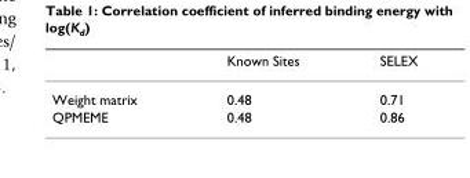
<table><thead><tr><td></td><td>Known Sites</td><td>SELEX</td></tr></thead><tbody><tr><td>Weight matrix</td><td>0.48</td><td>0.71</td></tr><tr><td>QPMEME</td><td>0.48</td><td>0.86</td></tr></tbody></table>